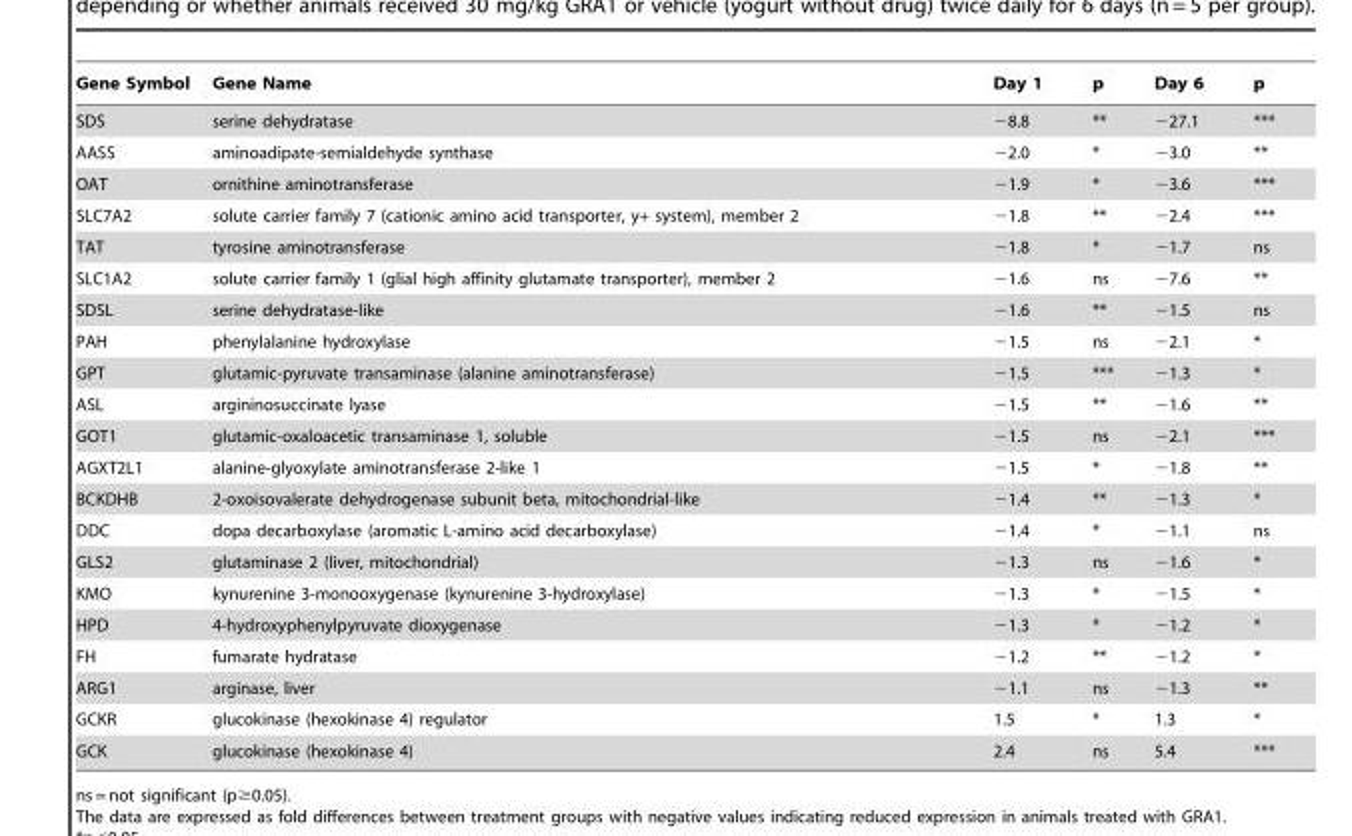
<table><thead><tr><td>Gene Symbol</td><td>Gene Name</td><td>Day 1</td><td>p</td><td>Day 6</td><td>p</td></tr></thead><tbody><tr><td>SDS</td><td>serine dehydratase</td><td>−8.8</td><td>**</td><td>−27.1</td><td>***</td></tr><tr><td>AASS</td><td>aminoadipate-semialdehyde synthase</td><td>−2.0</td><td>*</td><td>−3.0</td><td>**</td></tr><tr><td>OAT</td><td>ornithine aminotransferase</td><td>−1.9</td><td>*</td><td>−3.6</td><td>***</td></tr><tr><td>SLC7A2</td><td>solute carrier family 7 (cationic amino acid transporter, y+ system), member 2</td><td>−1.8</td><td>**</td><td>−2.4</td><td>***</td></tr><tr><td>TAT</td><td>tyrosine aminotransferase</td><td>−1.8</td><td>*</td><td>−1.7</td><td>ns</td></tr><tr><td>SLC1A2</td><td>solute carrier family 1 (glial high affinity glutamate transporter), member 2</td><td>−1.6</td><td>ns</td><td>−7.6</td><td>**</td></tr><tr><td>SDSL</td><td>serine dehydratase-like</td><td>−1.6</td><td>**</td><td>−1.5</td><td>ns</td></tr><tr><td>PAH</td><td>phenylalanine hydroxylase</td><td>−1.5</td><td>ns</td><td>−2.1</td><td>*</td></tr><tr><td>GPT</td><td>glutamic-pyruvate transaminase (alanine aminotransferase)</td><td>−1.5</td><td>***</td><td>−1.3</td><td>*</td></tr><tr><td>ASL</td><td>argininosuccinate lyase</td><td>−1.5</td><td>**</td><td>−1.6</td><td>**</td></tr><tr><td>GOT1</td><td>glutamic-oxaloacetic transaminase 1, soluble</td><td>−1.5</td><td>ns</td><td>−2.1</td><td>***</td></tr><tr><td>AGXT2L1</td><td>alanine-glyoxylate aminotransferase 2-like 1</td><td>−1.5</td><td>*</td><td>−1.8</td><td>**</td></tr><tr><td>BCKDHB</td><td>2-oxoisovalerate dehydrogenase subunit beta, mitochondrial-like</td><td>−1.4</td><td>**</td><td>−1.3</td><td>*</td></tr><tr><td>DDC</td><td>dopa decarboxylase (aromatic L-amino acid decarboxylase)</td><td>−1.4</td><td>*</td><td>−1.1</td><td>ns</td></tr><tr><td>GLS2</td><td>glutaminase 2 (liver, mitochondrial)</td><td>−1.3</td><td>ns</td><td>−1.6</td><td>*</td></tr><tr><td>KMO</td><td>kynurenine 3-monooxygenase (kynurenine 3-hydroxylase)</td><td>−1.3</td><td>*</td><td>−1.5</td><td>*</td></tr><tr><td>HPD</td><td>4-hydroxyphenylpyruvate dioxygenase</td><td>−1.3</td><td>*</td><td>−1.2</td><td>*</td></tr><tr><td>FH</td><td>fumarate hydratase</td><td>−1.2</td><td>**</td><td>−1.2</td><td>*</td></tr><tr><td>ARG1</td><td>arginase, liver</td><td>−1.1</td><td>ns</td><td>−1.3</td><td>**</td></tr><tr><td>GCKR</td><td>glucokinase (hexokinase 4) regulator</td><td>1.5</td><td>*</td><td>1.3</td><td>*</td></tr><tr><td>GCK</td><td>glucokinase (hexokinase 4)</td><td>2.4</td><td>ns</td><td>5.4</td><td>***</td></tr></tbody></table>